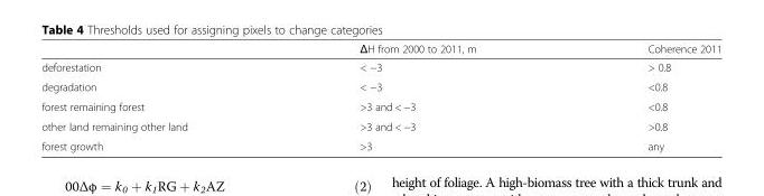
<table><thead><tr><td></td><td>ΔH from 2000 to 2011, m</td><td>Coherence 2011</td></tr></thead><tbody><tr><td>deforestation</td><td>&lt; −3</td><td>&gt; 0.8</td></tr><tr><td>degradation</td><td>&lt; −3</td><td>&lt;0.8</td></tr><tr><td>forest remaining forest</td><td>&gt;3 and &lt; −3</td><td>&lt;0.8</td></tr><tr><td>other land remaining other land</td><td>&gt;3 and &lt; −3</td><td>&gt;0.8</td></tr><tr><td>forest growth</td><td>&gt;3</td><td>any</td></tr></tbody></table>